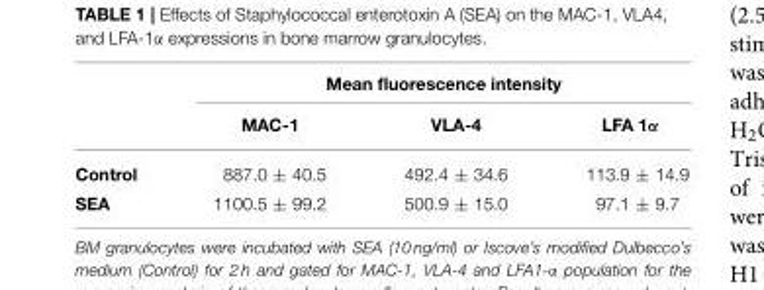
<table><thead><tr><td rowspan="2"></td><td colspan="3">Mean fluorescence intensity</td></tr><tr><td>MAC-1</td><td>VLA-4</td><td>LFA 1α</td></tr></thead><tbody><tr><td>Control</td><td>887.0 ± 40.5</td><td>492.4 ± 34.6</td><td>113.9 ± 14.9</td></tr><tr><td>SEA</td><td>1100.5 ± 99.2</td><td>500.9 ± 15.0</td><td>97.1 ± 9.7</td></tr></tbody></table>